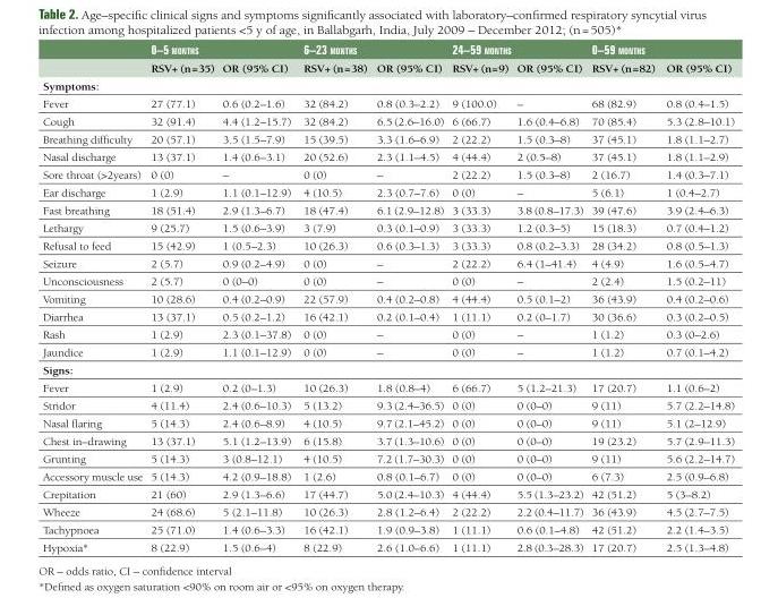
<table><thead><tr><td rowspan="2"></td><td colspan="2">0–5 months</td><td colspan="2">6–23 months</td><td colspan="2">24–59 months</td><td colspan="2">0–59 months</td></tr><tr><td>RSV+ (n = 35)</td><td>OR (95% CI)</td><td>RSV+ (n = 38)</td><td>OR (95% CI)</td><td>RSV+ (n = 9)</td><td>OR (95% CI)</td><td>RSV+ (n = 82)</td><td>OR (95% CI)</td></tr></thead><tbody><tr><td colspan="9">Symptoms:</td></tr><tr><td>Fever</td><td>27 (77.1)</td><td>0.6 (0.2–1.6)</td><td>32 (84.2)</td><td>0.8 (0.3–2.2)</td><td>9 (100.0)</td><td>–</td><td>68 (82.9)</td><td>0.8 (0.4–1.5)</td></tr><tr><td>Cough</td><td>32 (91.4)</td><td>4.4 (1.2–15.7)</td><td>32 (84.2)</td><td>6.5 (2.6–16.0)</td><td>6 (66.7)</td><td>1.6 (0.4–6.8)</td><td>70 (85.4)</td><td>5.3 (2.8–10.1)</td></tr><tr><td>Breathing difficulty</td><td>20 (57.1)</td><td>3.5 (1.5–7.9)</td><td>15 (39.5)</td><td>3.3 (1.6–6.9)</td><td>2 (22.2)</td><td>1.5 (0.3–8)</td><td>37 (45.1)</td><td>1.8 (1.1–2.7)</td></tr><tr><td>Nasal discharge</td><td>13 (37.1)</td><td>1.4 (0.6–3.1)</td><td>20 (52.6)</td><td>2.3 (1.1–4.5)</td><td>4 (44.4)</td><td>2 (0.5–8)</td><td>37 (45.1)</td><td>1.8 (1.1–2.9)</td></tr><tr><td>Sore throat (&gt;2years)</td><td>0 (0)</td><td>–</td><td>0 (0)</td><td>–</td><td>2 (22.2)</td><td>1.5 (0.3–8)</td><td>2 (16.7)</td><td>1.4 (0.3–7.1)</td></tr><tr><td>Ear discharge</td><td>1 (2.9)</td><td>1.1 (0.1–12.9)</td><td>4 (10.5)</td><td>2.3 (0.7–7.6)</td><td>0 (0)</td><td>–</td><td>5 (6.1)</td><td>1 (0.4–2.7)</td></tr><tr><td>Fast breathing</td><td>18 (51.4)</td><td>2.9 (1.3–6.7)</td><td>18 (47.4)</td><td>6.1 (2.9–12.8)</td><td>3 (33.3)</td><td>3.8 (0.8–17.3)</td><td>39 (47.6)</td><td>3.9 (2.4–6.3)</td></tr><tr><td>Lethargy</td><td>9 (25.7)</td><td>1.5 (0.6–3.9)</td><td>3 (7.9)</td><td>0.3 (0.1–0.9)</td><td>3 (33.3)</td><td>1.2 (0.3–5)</td><td>15 (18.3)</td><td>0.7 (0.4–1.2)</td></tr><tr><td>Refusal to feed</td><td>15 (42.9)</td><td>1 (0.5–2.3)</td><td>10 (26.3)</td><td>0.6 (0.3–1.3)</td><td>3 (33.3)</td><td>0.8 (0.2–3.3)</td><td>28 (34.2)</td><td>0.8 (0.5–1.3)</td></tr><tr><td>Seizure</td><td>2 (5.7)</td><td>0.9 (0.2–4.9)</td><td>0 (0)</td><td>–</td><td>2 (22.2)</td><td>6.4 (1–41.4)</td><td>4 (4.9)</td><td>1.6 (0.5–4.7)</td></tr><tr><td>Unconsciousness</td><td>2 (5.7)</td><td>0 (0–0)</td><td>0 (0)</td><td>–</td><td>0 (0)</td><td>–</td><td>2 (2.4)</td><td>1.5 (0.2–11)</td></tr><tr><td>Vomiting</td><td>10 (28.6)</td><td>0.4 (0.2–0.9)</td><td>22 (57.9)</td><td>0.4 (0.2–0.8)</td><td>4 (44.4)</td><td>0.5 (0.1–2)</td><td>36 (43.9)</td><td>0.4 (0.2–0.6)</td></tr><tr><td>Diarrhea</td><td>13 (37.1)</td><td>0.5 (0.2–1.2)</td><td>16 (42.1)</td><td>0.2 (0.1–0.4)</td><td>1 (11.1)</td><td>0.2 (0–1.7)</td><td>30 (36.6)</td><td>0.3 (0.2–0.5)</td></tr><tr><td>Rash</td><td>1 (2.9)</td><td>2.3 (0.1–37.8)</td><td>0 (0)</td><td>–</td><td>0 (0)</td><td>–</td><td>1 (1.2)</td><td>0.3 (0–2.6)</td></tr><tr><td>Jaundice</td><td>1 (2.9)</td><td>1.1 (0.1–12.9)</td><td>0 (0)</td><td>–</td><td>0 (0)</td><td>–</td><td>1 (1.2)</td><td>0.7 (0.1–4.2)</td></tr><tr><td colspan="9">Signs:</td></tr><tr><td>Fever</td><td>1 (2.9)</td><td>0.2 (0–1.3)</td><td>10 (26.3)</td><td>1.8 (0.8–4)</td><td>6 (66.7)</td><td>5 (1.2–21.3)</td><td>17 (20.7)</td><td>1.1 (0.6–2)</td></tr><tr><td>Stridor</td><td>4 (11.4)</td><td>2.4 (0.6–10.3)</td><td>5 (13.2)</td><td>9.3 (2.4–36.5)</td><td>0 (0)</td><td>0 (0–0)</td><td>9 (11)</td><td>5.7 (2.2–14.8)</td></tr><tr><td>Nasal flaring</td><td>5 (14.3)</td><td>2.4 (0.6–8.9)</td><td>4 (10.5)</td><td>9.7 (2.1–45.2)</td><td>0 (0)</td><td>0 (0–0)</td><td>9 (11)</td><td>5.1 (2–12.9)</td></tr><tr><td>Chest in–drawing</td><td>13 (37.1)</td><td>5.1 (1.2–13.9)</td><td>6 (15.8)</td><td>3.7 (1.3–10.6)</td><td>0 (0)</td><td>0 (0–0)</td><td>19 (23.2)</td><td>5.7 (2.9–11.3)</td></tr><tr><td>Grunting</td><td>5 (14.3)</td><td>3 (0.8–12.1)</td><td>4 (10.5)</td><td>7.2 (1.7–30.3)</td><td>0 (0)</td><td>0 (0–0)</td><td>9 (11)</td><td>5.6 (2.2–14.7)</td></tr><tr><td>Accessory muscle use</td><td>5 (14.3)</td><td>4.2 (0.9–18.8)</td><td>1 (2.6)</td><td>0.8 (0.1–6.7)</td><td>0 (0)</td><td>0 (0–0)</td><td>6 (7.3)</td><td>2.5 (0.9–6.8)</td></tr><tr><td>Crepitation</td><td>21 (60)</td><td>2.9 (1.3–6.6)</td><td>17 (44.7)</td><td>5.0 (2.4–10.3)</td><td>4 (44.4)</td><td>5.5 (1.3–23.2)</td><td>42 (51.2)</td><td>5 (3–8.2)</td></tr><tr><td>Wheeze</td><td>24 (68.6)</td><td>5 (2.1–11.8)</td><td>10 (26.3)</td><td>2.8 (1.2–6.4)</td><td>2 (22.2)</td><td>2.2 (0.4–11.7)</td><td>36 (43.9)</td><td>4.5 (2.7–7.5)</td></tr><tr><td>Tachypnoea</td><td>25 (71.0)</td><td>1.4 (0.6–3.3)</td><td>16 (42.1)</td><td>1.9 (0.9–3.8)</td><td>1 (11.1)</td><td>0.6 (0.1–4.8)</td><td>42 (51.2)</td><td>2.2 (1.4–3.5)</td></tr><tr><td>Hypoxia*</td><td>8 (22.9)</td><td>1.5 (0.6–4)</td><td>8 (22.9)</td><td>2.6 (1.0–6.6)</td><td>1 (11.1)</td><td>2.8 (0.3–28.3)</td><td>17 (20.7)</td><td>2.5 (1.3–4.8)</td></tr></tbody></table>